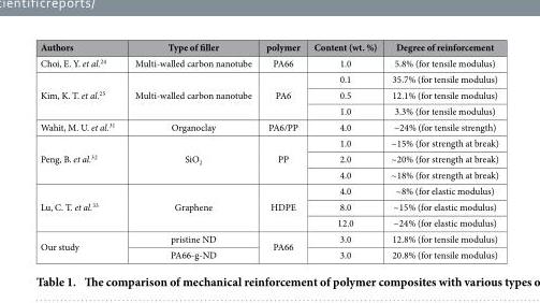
<table><thead><tr><td>Authors</td><td>Type of filler</td><td>polymer</td><td>Content (wt. %)</td><td>Degree of reinforcement</td></tr></thead><tbody><tr><td>Choi, E. Y. et al.<sup>24</sup></td><td>Multi-walled carbon nanotube</td><td>PA66</td><td>1.0</td><td>5.8% (for tensile modulus)</td></tr><tr><td rowspan="3">Kim, K. T. et al.<sup>25</sup></td><td rowspan="3">Multi-walled carbon nanotube</td><td rowspan="3">PA6</td><td>0.1</td><td>35.7% (for tensile modulus)</td></tr><tr><td>0.5</td><td>12.1% (for tensile modulus)</td></tr><tr><td>1.0</td><td>3.3% (for tensile modulus)</td></tr><tr><td>Wahit, M. U. et al.<sup>31</sup></td><td>Organoclay</td><td>PA6/PP</td><td>4.0</td><td>~24% (for tensile strength)</td></tr><tr><td rowspan="3">Peng, B. et al.<sup>32</sup></td><td rowspan="3">SiO<sub>2</sub></td><td rowspan="3">PP</td><td>1.0</td><td>~15% (for strength at break)</td></tr><tr><td>2.0</td><td>~20% (for strength at break)</td></tr><tr><td>4.0</td><td>~18% (for strength at break)</td></tr><tr><td rowspan="3">Lu, C. T. et al.<sup>33</sup></td><td rowspan="3">Graphene</td><td rowspan="3">HDPE</td><td>4.0</td><td>~8% (for elastic modulus)</td></tr><tr><td>8.0</td><td>~15% (for elastic modulus)</td></tr><tr><td>12.0</td><td>~24% (for elastic modulus)</td></tr><tr><td rowspan="2">Our study</td><td>pristine ND</td><td rowspan="2">PA66</td><td>3.0</td><td>12.8% (for tensile modulus)</td></tr><tr><td>PA66-g-ND</td><td>3.0</td><td>20.8% (for tensile modulus)</td></tr></tbody></table>